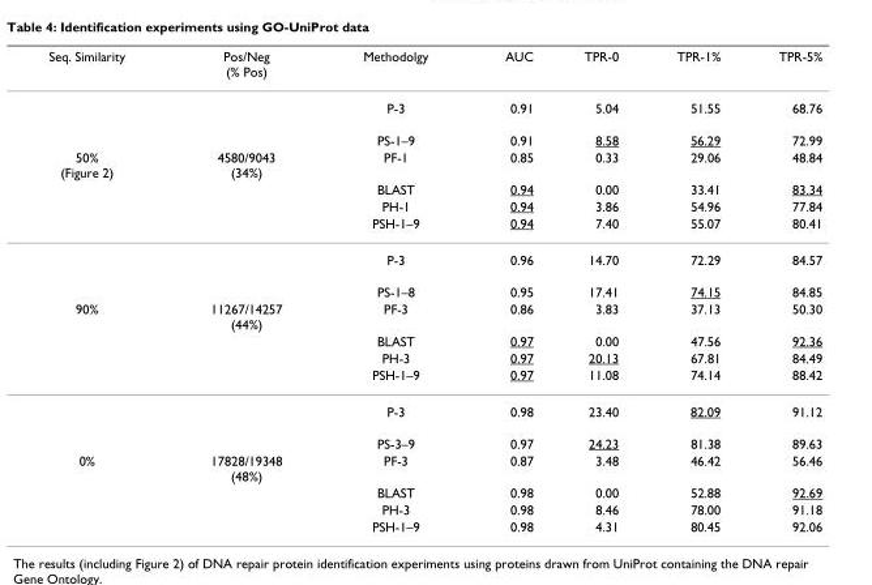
<table><thead><tr><td>Seq. Similarity</td><td>Pos/Neg (% Pos)</td><td>Methodolgy</td><td>AUC</td><td>TPR-0</td><td>TPR-1%</td><td>TPR-5%</td></tr></thead><tbody><tr><td></td><td></td><td>P-3</td><td>0.91</td><td>5.04</td><td>51.55</td><td>68.76</td></tr><tr><td></td><td></td><td>PS-1–9</td><td>0.91</td><td>8.58</td><td>56.29</td><td>72.99</td></tr><tr><td rowspan="6">50% (Figure 2)</td><td>4580/9043 (34%)</td><td>PF-1</td><td>0.85</td><td>0.33</td><td>29.06</td><td>48.84</td></tr><tr><td></td><td>BLAST</td><td>0.94</td><td>0.00</td><td>33.41</td><td>83.34</td></tr><tr><td></td><td>PH-1</td><td>0.94</td><td>3.86</td><td>54.96</td><td>77.84</td></tr><tr><td></td><td>PSH-1–9</td><td>0.94</td><td>7.40</td><td>55.07</td><td>80.41</td></tr><tr><td></td><td>P-3</td><td>0.96</td><td>14.70</td><td>72.29</td><td>84.57</td></tr><tr><td></td><td>PS-1–8</td><td>0.95</td><td>17.41</td><td>74.15</td><td>84.85</td></tr><tr><td rowspan="6">90%</td><td>11267/14257 (44%)</td><td>PF-3</td><td>0.86</td><td>3.83</td><td>37.13</td><td>50.30</td></tr><tr><td></td><td>BLAST</td><td>0.97</td><td>0.00</td><td>47.56</td><td>92.36</td></tr><tr><td></td><td>PH-3</td><td>0.97</td><td>20.13</td><td>67.81</td><td>84.49</td></tr><tr><td></td><td>PSH-1–9</td><td>0.97</td><td>11.08</td><td>74.14</td><td>88.42</td></tr><tr><td></td><td>P-3</td><td>0.98</td><td>23.40</td><td>82.09</td><td>91.12</td></tr><tr><td></td><td>PS-3–9</td><td>0.97</td><td>24.23</td><td>81.38</td><td>89.63</td></tr><tr><td rowspan="4">0%</td><td>17828/19348 (48%)</td><td>PF-3</td><td>0.87</td><td>3.48</td><td>46.42</td><td>56.46</td></tr><tr><td></td><td>BLAST</td><td>0.98</td><td>0.00</td><td>52.88</td><td>92.69</td></tr><tr><td></td><td>PH-3</td><td>0.98</td><td>8.46</td><td>78.00</td><td>91.18</td></tr><tr><td></td><td>PSH-1–9</td><td>0.98</td><td>4.31</td><td>80.45</td><td>92.06</td></tr></tbody></table>